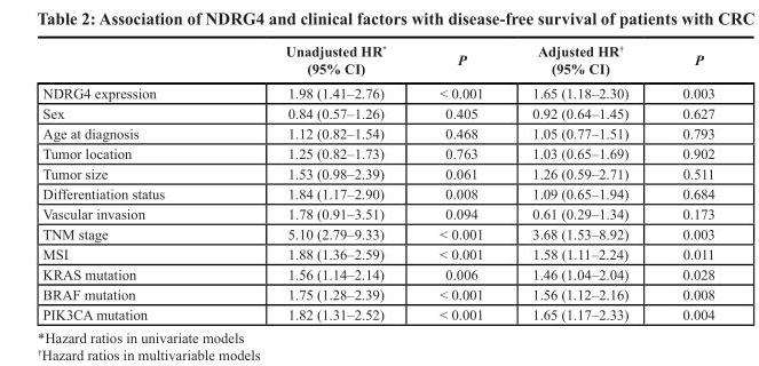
<table><thead><tr><td></td><td>Unadjusted HR* (95% CI)</td><td>P</td><td>Adjusted HR<sup>†</sup> (95% CI)</td><td>P</td></tr></thead><tbody><tr><td>NDRG4 expression</td><td>1.98 (1.41–2.76)</td><td>&lt; 0.001</td><td>1.65 (1.18–2.30)</td><td>0.003</td></tr><tr><td>Sex</td><td>0.84 (0.57–1.26)</td><td>0.405</td><td>0.92 (0.64–1.45)</td><td>0.627</td></tr><tr><td>Age at diagnosis</td><td>1.12 (0.82–1.54)</td><td>0.468</td><td>1.05 (0.77–1.51)</td><td>0.793</td></tr><tr><td>Tumor location</td><td>1.25 (0.82–1.73)</td><td>0.763</td><td>1.03 (0.65–1.69)</td><td>0.902</td></tr><tr><td>Tumor size</td><td>1.53 (0.98–2.39)</td><td>0.061</td><td>1.26 (0.59–2.71)</td><td>0.511</td></tr><tr><td>Differentiation status</td><td>1.84 (1.17–2.90)</td><td>0.008</td><td>1.09 (0.65–1.94)</td><td>0.684</td></tr><tr><td>Vascular invasion</td><td>1.78 (0.91–3.51)</td><td>0.094</td><td>0.61 (0.29–1.34)</td><td>0.173</td></tr><tr><td>TNM stage</td><td>5.10 (2.79–9.33)</td><td>&lt; 0.001</td><td>3.68 (1.53–8.92)</td><td>0.003</td></tr><tr><td>MSI</td><td>1.88 (1.36–2.59)</td><td>&lt; 0.001</td><td>1.58 (1.11–2.24)</td><td>0.011</td></tr><tr><td>KRAS mutation</td><td>1.56 (1.14–2.14)</td><td>0.006</td><td>1.46 (1.04–2.04)</td><td>0.028</td></tr><tr><td>BRAF mutation</td><td>1.75 (1.28–2.39)</td><td>&lt; 0.001</td><td>1.56 (1.12–2.16)</td><td>0.008</td></tr><tr><td>PIK3CA mutation</td><td>1.82 (1.31–2.52)</td><td>&lt; 0.001</td><td>1.65 (1.17–2.33)</td><td>0.004</td></tr></tbody></table>